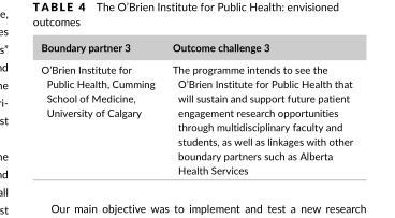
<table><thead><tr><td>Boundary partner 3</td><td>Outcome challenge 3</td></tr></thead><tbody><tr><td>O’Brien Institute for Public Health, Cumming School of Medicine, University of Calgary</td><td>The programme intends to see the O’Brien Institute for Public Health that will sustain and support future patient engagement research opportunities through multidisciplinary faculty and students, as well as linkages with other boundary partners such as Alberta Health Services</td></tr></tbody></table>